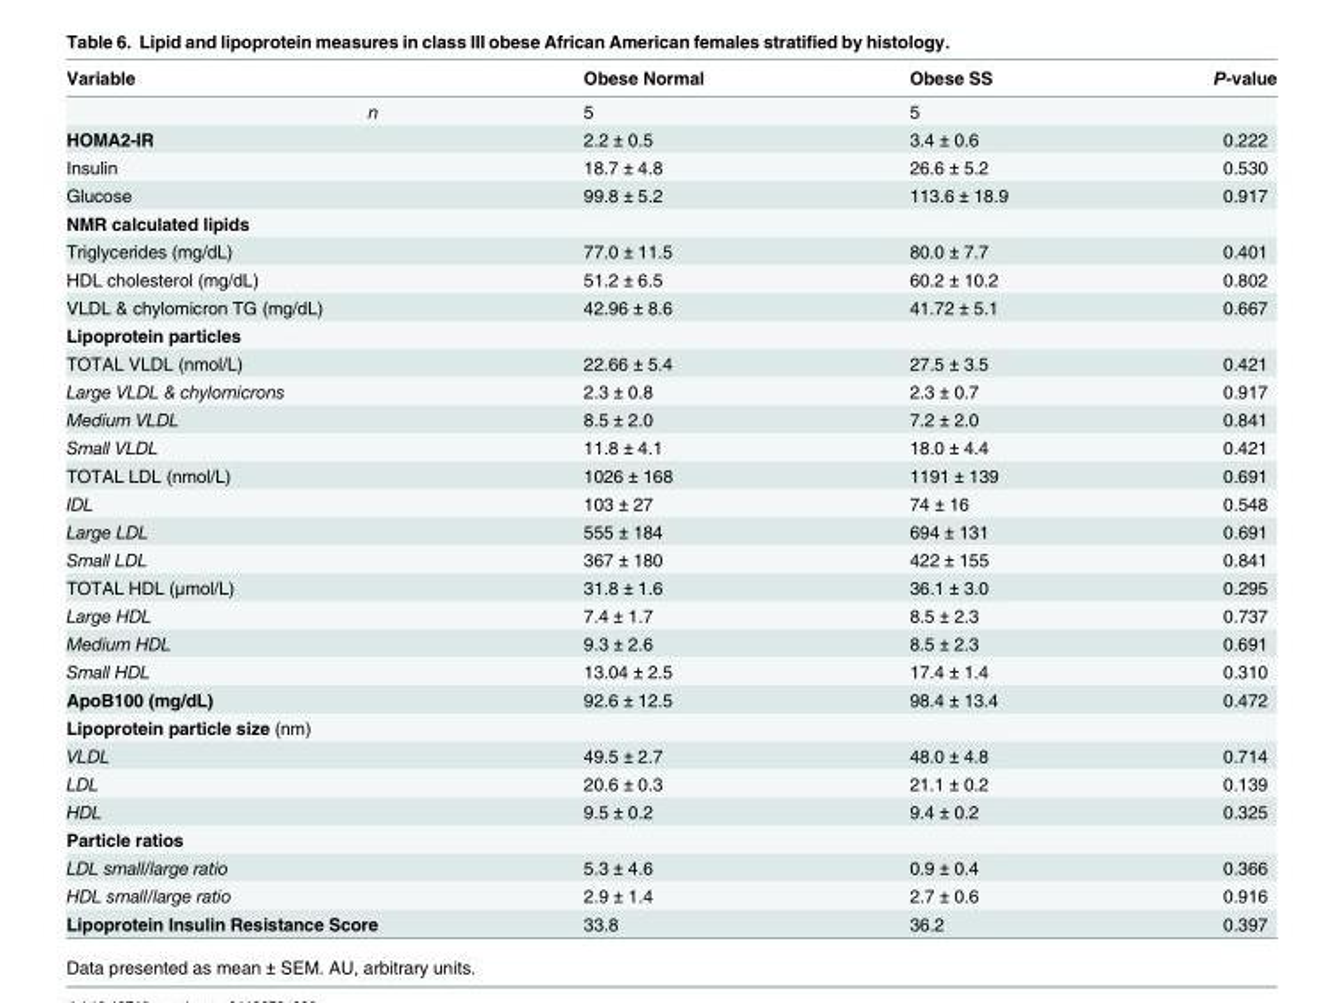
<table><thead><tr><td>Variable</td><td>Obese Normal</td><td>Obese SS</td><td>P-value</td></tr></thead><tbody><tr><td>n</td><td>5</td><td>5</td><td></td></tr><tr><td>HOMA2-IR</td><td>2.2 ± 0.5</td><td>3.4 ± 0.6</td><td>0.222</td></tr><tr><td>Insulin</td><td>18.7 ± 4.8</td><td>26.6 ± 5.2</td><td>0.530</td></tr><tr><td>Glucose</td><td>99.8 ± 5.2</td><td>113.6 ± 18.9</td><td>0.917</td></tr><tr><td colspan="4">NMR calculated lipids</td></tr><tr><td>Triglycerides (mg/dL)</td><td>77.0 ± 11.5</td><td>80.0 ± 7.7</td><td>0.401</td></tr><tr><td>HDL cholesterol (mg/dL)</td><td>51.2 ± 6.5</td><td>60.2 ± 10.2</td><td>0.802</td></tr><tr><td>VLDL &amp; chylomicron TG (mg/dL)</td><td>42.96 ± 8.6</td><td>41.72 ± 5.1</td><td>0.667</td></tr><tr><td colspan="4">Lipoprotein particles</td></tr><tr><td>TOTAL VLDL (nmol/L)</td><td>22.66 ± 5.4</td><td>27.5 ± 3.5</td><td>0.421</td></tr><tr><td>Large VLDL &amp; chylomicrons</td><td>2.3 ± 0.8</td><td>2.3 ± 0.7</td><td>0.917</td></tr><tr><td>Medium VLDL</td><td>8.5 ± 2.0</td><td>7.2 ± 2.0</td><td>0.841</td></tr><tr><td>Small VLDL</td><td>11.8 ± 4.1</td><td>18.0 ± 4.4</td><td>0.421</td></tr><tr><td>TOTAL LDL (nmol/L)</td><td>1026 ± 168</td><td>1191 ± 139</td><td>0.691</td></tr><tr><td>IDL</td><td>103 ± 27</td><td>74 ± 16</td><td>0.548</td></tr><tr><td>Large LDL</td><td>555 ± 184</td><td>694 ± 131</td><td>0.691</td></tr><tr><td>Small LDL</td><td>367 ± 180</td><td>422 ± 155</td><td>0.841</td></tr><tr><td>TOTAL HDL (μmol/L)</td><td>31.8 ± 1.6</td><td>36.1 ± 3.0</td><td>0.295</td></tr><tr><td>Large HDL</td><td>7.4 ± 1.7</td><td>8.5 ± 2.3</td><td>0.737</td></tr><tr><td>Medium HDL</td><td>9.3 ± 2.6</td><td>8.5 ± 2.3</td><td>0.691</td></tr><tr><td>Small HDL</td><td>13.04 ± 2.5</td><td>17.4 ± 1.4</td><td>0.310</td></tr><tr><td>ApoB100 (mg/dL)</td><td>92.6 ± 12.5</td><td>98.4 ± 13.4</td><td>0.472</td></tr><tr><td colspan="4">Lipoprotein particle size (nm)</td></tr><tr><td>VLDL</td><td>49.5 ± 2.7</td><td>48.0 ± 4.8</td><td>0.714</td></tr><tr><td>LDL</td><td>20.6 ± 0.3</td><td>21.1 ± 0.2</td><td>0.139</td></tr><tr><td>HDL</td><td>9.5 ± 0.2</td><td>9.4 ± 0.2</td><td>0.325</td></tr><tr><td colspan="4">Particle ratios</td></tr><tr><td>LDL small/large ratio</td><td>5.3 ± 4.6</td><td>0.9 ± 0.4</td><td>0.366</td></tr><tr><td>HDL small/large ratio</td><td>2.9 ± 1.4</td><td>2.7 ± 0.6</td><td>0.916</td></tr><tr><td>Lipoprotein Insulin Resistance Score</td><td>33.8</td><td>36.2</td><td>0.397</td></tr></tbody></table>